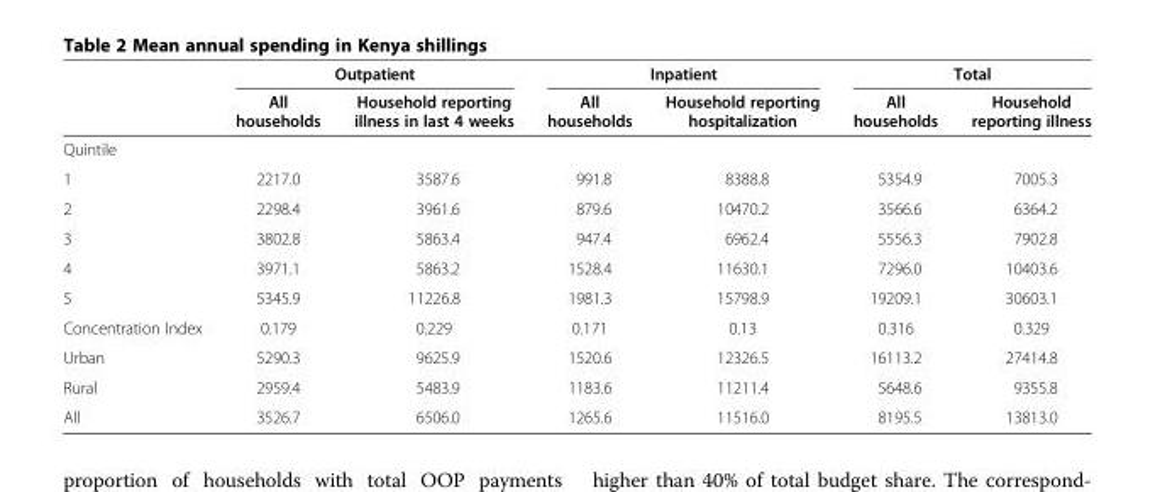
<table><thead><tr><td rowspan="2"></td><td colspan="2">Outpatient</td><td colspan="2">Inpatient</td><td colspan="2">Total</td></tr><tr><td>All households</td><td>Household reporting illness in last 4 weeks</td><td>All households</td><td>Household reporting hospitalization</td><td>All households</td><td>Household reporting illness</td></tr></thead><tbody><tr><td colspan="7">Quintile</td></tr><tr><td>1</td><td>2217.0</td><td>3587.6</td><td>991.8</td><td>8388.8</td><td>5354.9</td><td>7005.3</td></tr><tr><td>2</td><td>2298.4</td><td>3961.6</td><td>879.6</td><td>10470.2</td><td>3566.6</td><td>6364.2</td></tr><tr><td>3</td><td>3802.8</td><td>5863.4</td><td>947.4</td><td>6962.4</td><td>5556.3</td><td>7902.8</td></tr><tr><td>4</td><td>3971.1</td><td>5863.2</td><td>1528.4</td><td>11630.1</td><td>7296.0</td><td>10403.6</td></tr><tr><td>5</td><td>5345.9</td><td>11226.8</td><td>1981.3</td><td>15798.9</td><td>19209.1</td><td>30603.1</td></tr><tr><td>Concentration Index</td><td>0.179</td><td>0.229</td><td>0.171</td><td>0.13</td><td>0.316</td><td>0.329</td></tr><tr><td>Urban</td><td>5290.3</td><td>9625.9</td><td>1520.6</td><td>12326.5</td><td>16113.2</td><td>27414.8</td></tr><tr><td>Rural</td><td>2959.4</td><td>5483.9</td><td>1183.6</td><td>11211.4</td><td>5648.6</td><td>9355.8</td></tr><tr><td>All</td><td>3526.7</td><td>6506.0</td><td>1265.6</td><td>11516.0</td><td>8195.5</td><td>13813.0</td></tr></tbody></table>